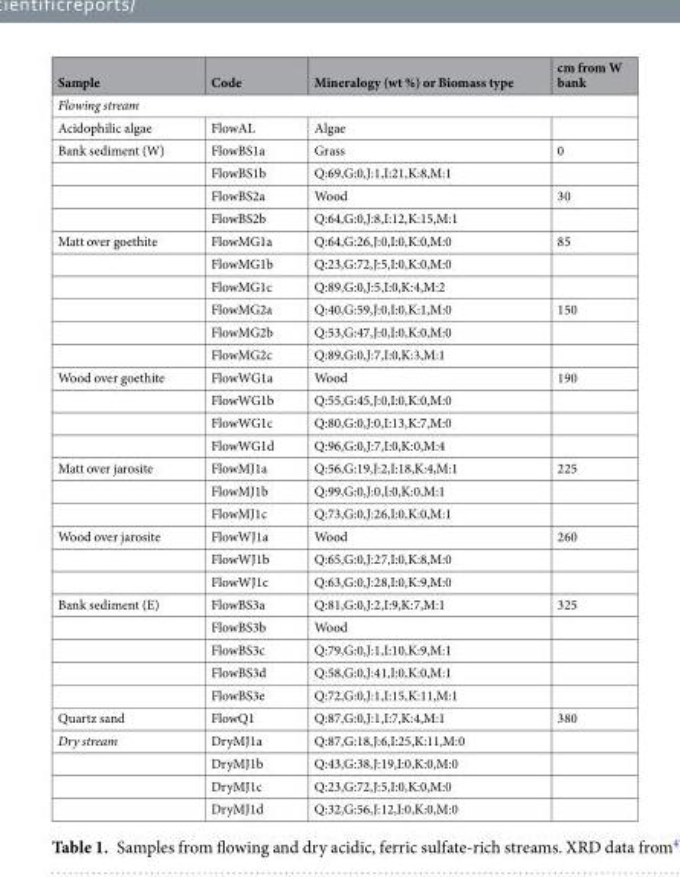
<table><thead><tr><td>Sample</td><td>Code</td><td>Mineralogy (wt %) or Biomass type</td><td>cm from W bank</td></tr></thead><tbody><tr><td colspan="4">Flowing stream</td></tr><tr><td>Acidophilic algae</td><td>FlowAL</td><td>Algae</td><td></td></tr><tr><td rowspan="4">Bank sediment (W)</td><td>FlowBS1a</td><td>Grass</td><td>0</td></tr><tr><td>FlowBS1b</td><td>Q:69,G:0,J:1,I:21,K:8,M:1</td><td></td></tr><tr><td>FlowBS2a</td><td>Wood</td><td>30</td></tr><tr><td>FlowBS2b</td><td>Q:64,G:0,J:8,I:12,K:15,M:1</td><td></td></tr><tr><td rowspan="6">Matt over goethite</td><td>FlowMG1a</td><td>Q:64,G:26,J:0,I:0,K:0,M:0</td><td>85</td></tr><tr><td>FlowMG1b</td><td>Q:23,G:72,J:5,I:0,K:0,M:0</td><td></td></tr><tr><td>FlowMG1c</td><td>Q:89,G:0,J:5,I:0,K:4,M:2</td><td></td></tr><tr><td>FlowMG2a</td><td>Q:40,G:59,J:0,I:0,K:1,M:0</td><td>150</td></tr><tr><td>FlowMG2b</td><td>Q:53,G:47,J:0,I:0,K:0,M:0</td><td></td></tr><tr><td>FlowMG2c</td><td>Q:89,G:0,J:7,I:0,K:3,M:1</td><td></td></tr><tr><td rowspan="4">Wood over goethite</td><td>FlowWG1a</td><td>Wood</td><td>190</td></tr><tr><td>FlowWG1b</td><td>Q:55,G:45,J:0,I:0,K:0,M:0</td><td></td></tr><tr><td>FlowWG1c</td><td>Q:80,G:0,J:0,I:13,K:7,M:0</td><td></td></tr><tr><td>FlowWG1d</td><td>Q:96,G:0,J:7,I:0,K:0,M:4</td><td></td></tr><tr><td rowspan="3">Matt over jarosite</td><td>FlowMJ1a</td><td>Q:56,G:19,J:2,I:18,K:4,M:1</td><td>225</td></tr><tr><td>FlowMJ1b</td><td>Q:99,G:0,J:0,I:0,K:0,M:1</td><td></td></tr><tr><td>FlowMJ1c</td><td>Q:73,G:0,J:26,I:0,K:0,M:1</td><td></td></tr><tr><td rowspan="3">Wood over jarosite</td><td>FlowWJ1a</td><td>Wood</td><td>260</td></tr><tr><td>FlowWJ1b</td><td>Q:65,G:0,J:27,I:0,K:8,M:0</td><td></td></tr><tr><td>FlowWJ1c</td><td>Q:63,G:0,J:28,I:0,K:9,M:0</td><td></td></tr><tr><td rowspan="5">Bank sediment (E)</td><td>FlowBS3a</td><td>Q:81,G:0,J:2,I:9,K:7,M:1</td><td>325</td></tr><tr><td>FlowBS3b</td><td>Wood</td><td></td></tr><tr><td>FlowBS3c</td><td>Q:79,G:0,J:1,I:10,K:9,M:1</td><td></td></tr><tr><td>FlowBS3d</td><td>Q:58,G:0,J:41,I:0,K:0,M:1</td><td></td></tr><tr><td>FlowBS3e</td><td>Q:72,G:0,J:1,I:15,K:11,M:1</td><td></td></tr><tr><td>Quartz sand</td><td>FlowQ1</td><td>Q:87,G:0,J:1,I:7,K:4,M:1</td><td>380</td></tr><tr><td rowspan="4">Dry stream</td><td>DryMJ1a</td><td>Q:87,G:18,J:6,I:25,K:11,M:0</td><td></td></tr><tr><td>DryMJ1b</td><td>Q:43,G:38,J:19,I:0,K:0,M:0</td><td></td></tr><tr><td>DryMJ1c</td><td>Q:23,G:72,J:5,I:0,K:0,M:0</td><td></td></tr><tr><td>DryMJ1d</td><td>Q:32,G:56,J:12,I:0,K:0,M:0</td><td></td></tr></tbody></table>